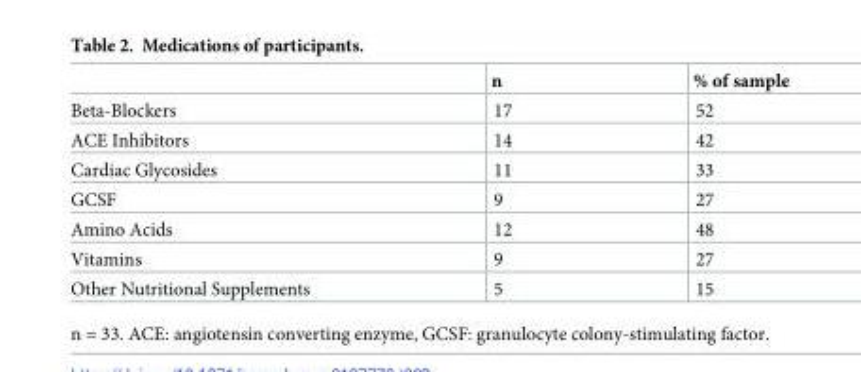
<table><thead><tr><td></td><td>n</td><td>% of sample</td></tr></thead><tbody><tr><td>Beta-Blockers</td><td>17</td><td>52</td></tr><tr><td>ACE Inhibitors</td><td>14</td><td>42</td></tr><tr><td>Cardiac Glycosides</td><td>11</td><td>33</td></tr><tr><td>GCSF</td><td>9</td><td>27</td></tr><tr><td>Amino Acids</td><td>12</td><td>48</td></tr><tr><td>Vitamins</td><td>9</td><td>27</td></tr><tr><td>Other Nutritional Supplements</td><td>5</td><td>15</td></tr></tbody></table>